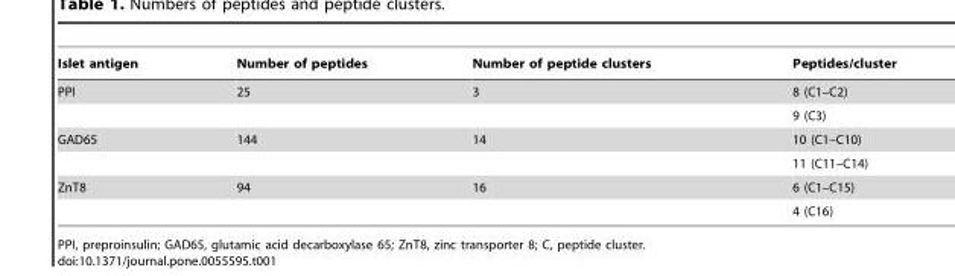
<table><thead><tr><td>Islet antigen</td><td>Number of peptides</td><td>Number of peptide clusters</td><td>Peptides/cluster</td></tr></thead><tbody><tr><td rowspan="2">PPI</td><td>25</td><td>3</td><td>8 (C1–C2)</td></tr><tr><td></td><td></td><td>9 (C3)</td></tr><tr><td rowspan="2">GAD65</td><td>144</td><td>14</td><td>10 (C1–C10)</td></tr><tr><td></td><td></td><td>11 (C11–C14)</td></tr><tr><td rowspan="2">ZnT8</td><td>94</td><td>16</td><td>6 (C1–C15)</td></tr><tr><td></td><td></td><td>4 (C16)</td></tr></tbody></table>